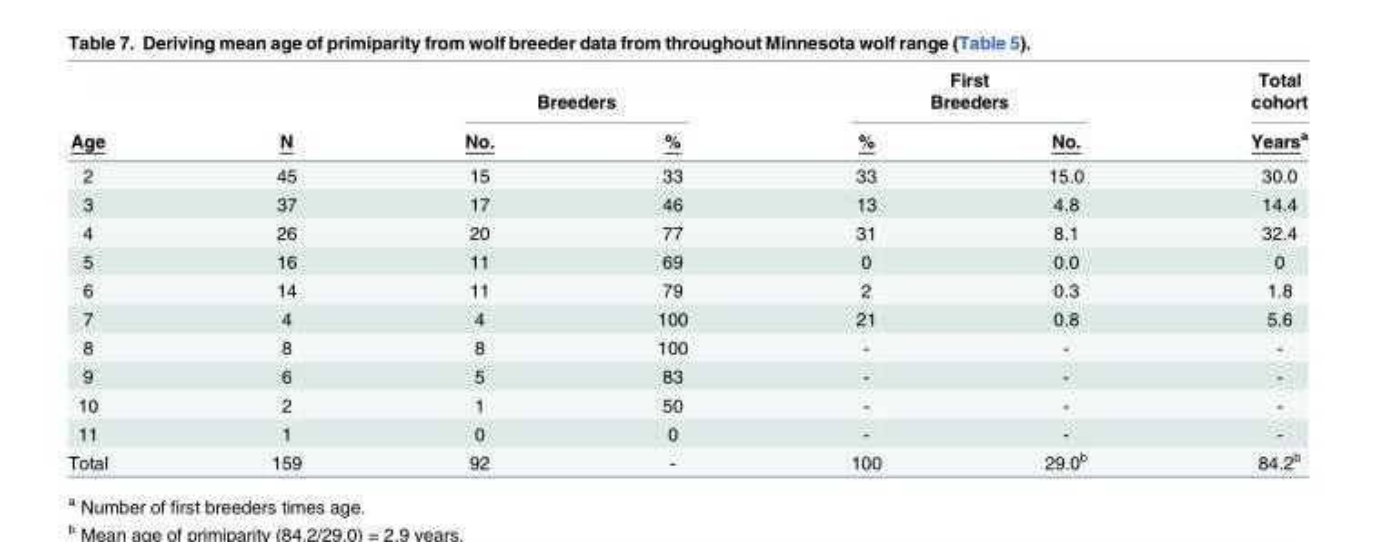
<table><thead><tr><td rowspan="3">Age</td><td rowspan="3">N</td><td></td><td></td><td rowspan="2" colspan="2">First Breeders</td><td rowspan="3">Total cohort Yearsa</td></tr><tr><td colspan="2">Breeders</td></tr><tr><td>No.</td><td>%</td><td>%</td><td>No.</td></tr></thead><tbody><tr><td>2</td><td>45</td><td>15</td><td>33</td><td>33</td><td>15.0</td><td>30.0</td></tr><tr><td>3</td><td>37</td><td>17</td><td>46</td><td>13</td><td>4.8</td><td>14.4</td></tr><tr><td>4</td><td>26</td><td>20</td><td>77</td><td>31</td><td>8.1</td><td>32.4</td></tr><tr><td>5</td><td>16</td><td>11</td><td>69</td><td>0</td><td>0.0</td><td>0</td></tr><tr><td>6</td><td>14</td><td>11</td><td>79</td><td>2</td><td>0.3</td><td>1.8</td></tr><tr><td>7</td><td>4</td><td>4</td><td>100</td><td>21</td><td>0.8</td><td>5.6</td></tr><tr><td>8</td><td>8</td><td>8</td><td>100</td><td>-</td><td>-</td><td>-</td></tr><tr><td>9</td><td>6</td><td>5</td><td>83</td><td>-</td><td>-</td><td>-</td></tr><tr><td>10</td><td>2</td><td>1</td><td>50</td><td>-</td><td>-</td><td>-</td></tr><tr><td>11</td><td>1</td><td>0</td><td>0</td><td>-</td><td>-</td><td>-</td></tr><tr><td>Total</td><td>159</td><td>92</td><td>-</td><td>100</td><td>29.0<sup>b</sup></td><td>84.2<sup>b</sup></td></tr></tbody></table>